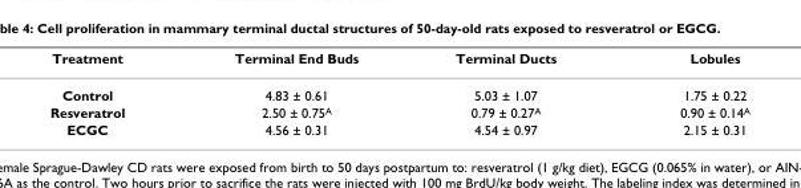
<table><thead><tr><td>Treatment</td><td>Terminal End Buds</td><td>Terminal Ducts</td><td>Lobules</td></tr></thead><tbody><tr><td>Control</td><td>4.83 ± 0.61</td><td>5.03 ± 1.07</td><td>1.75 ± 0.22</td></tr><tr><td>Resveratrol</td><td>2.50 ± 0.75<sup>A</sup></td><td>0.79 ± 0.27<sup>A</sup></td><td>0.90 ± 0.14<sup>A</sup></td></tr><tr><td>ECGC</td><td>4.56 ± 0.31</td><td>4.54 ± 0.97</td><td>2.15 ± 0.31</td></tr></tbody></table>